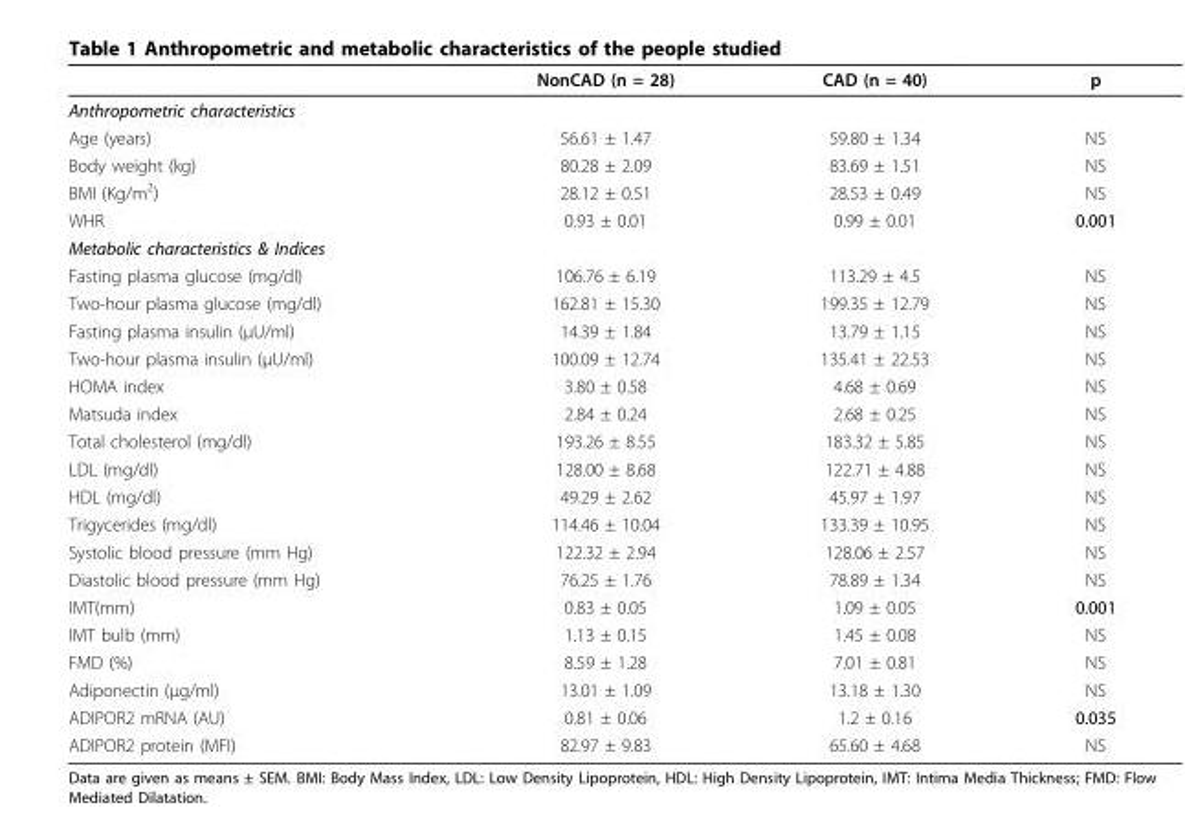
<table><thead><tr><td></td><td>NonCAD (n = 28)</td><td>CAD (n = 40)</td><td>p</td></tr></thead><tbody><tr><td colspan="4">Anthropometric characteristics</td></tr><tr><td>Age (years)</td><td>56.61 ± 1.47</td><td>59.80 ± 1.34</td><td>NS</td></tr><tr><td>Body weight (kg)</td><td>80.28 ± 2.09</td><td>83.69 ± 1.51</td><td>NS</td></tr><tr><td>BMI (Kg/m<sup>2</sup>)</td><td>28.12 ± 0.51</td><td>28.53 ± 0.49</td><td>NS</td></tr><tr><td>WHR</td><td>0.93 ± 0.01</td><td>0.99 ± 0.01</td><td>0.001</td></tr><tr><td colspan="4">Metabolic characteristics &amp; Indices</td></tr><tr><td>Fasting plasma glucose (mg/dl)</td><td>106.76 ± 6.19</td><td>113.29 ± 4.5</td><td>NS</td></tr><tr><td>Two-hour plasma glucose (mg/dl)</td><td>162.81 ± 15.30</td><td>199.35 ± 12.79</td><td>NS</td></tr><tr><td>Fasting plasma insulin (μU/ml)</td><td>14.39 ± 1.84</td><td>13.79 ± 1.15</td><td>NS</td></tr><tr><td>Two-hour plasma insulin (μU/ml)</td><td>100.09 ± 12.74</td><td>135.41 ± 22.53</td><td>NS</td></tr><tr><td>HOMA index</td><td>3.80 ± 0.58</td><td>4.68 ± 0.69</td><td>NS</td></tr><tr><td>Matsuda index</td><td>2.84 ± 0.24</td><td>2.68 ± 0.25</td><td>NS</td></tr><tr><td>Total cholesterol (mg/dl)</td><td>193.26 ± 8.55</td><td>183.32 ± 5.85</td><td>NS</td></tr><tr><td>LDL (mg/dl)</td><td>128.00 ± 8.68</td><td>122.71 ± 4.88</td><td>NS</td></tr><tr><td>HDL (mg/dl)</td><td>49.29 ± 2.62</td><td>45.97 ± 1.97</td><td>NS</td></tr><tr><td>Trigycerides (mg/dl)</td><td>114.46 ± 10.04</td><td>133.39 ± 10.95</td><td>NS</td></tr><tr><td>Systolic blood pressure (mm Hg)</td><td>122.32 ± 2.94</td><td>128.06 ± 2.57</td><td>NS</td></tr><tr><td>Diastolic blood pressure (mm Hg)</td><td>76.25 ± 1.76</td><td>78.89 ± 1.34</td><td>NS</td></tr><tr><td>IMT(mm)</td><td>0.83 ± 0.05</td><td>1.09 ± 0.05</td><td>0.001</td></tr><tr><td>IMT bulb (mm)</td><td>1.13 ± 0.15</td><td>1.45 ± 0.08</td><td>NS</td></tr><tr><td>FMD (%)</td><td>8.59 ± 1.28</td><td>7.01 ± 0.81</td><td>NS</td></tr><tr><td>Adiponectin (μg/ml)</td><td>13.01 ± 1.09</td><td>13.18 ± 1.30</td><td>NS</td></tr><tr><td>ADIPOR2 mRNA (AU)</td><td>0.81 ± 0.06</td><td>1.2 ± 0.16</td><td>0.035</td></tr><tr><td>ADIPOR2 protein (MFI)</td><td>82.97 ± 9.83</td><td>65.60 ± 4.68</td><td>NS</td></tr></tbody></table>